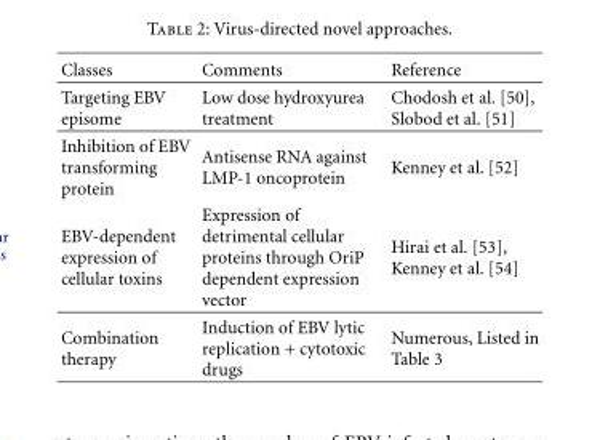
<table><thead><tr><td>Classes</td><td>Comments</td><td>Reference</td></tr></thead><tbody><tr><td>Targeting EBV episome</td><td>Low dose hydroxyurea treatment</td><td>Chodosh et al. [50], Slobod et al. [51]</td></tr><tr><td>Inhibition of EBV transforming protein</td><td>Antisense RNA against LMP-1 oncoprotein</td><td>Kenney et al. [52]</td></tr><tr><td>EBV-dependent expression of cellular toxins</td><td>Expression of detrimental cellular proteins through OriP dependent expression vector</td><td>Hirai et al. [53], Kenney et al. [54]</td></tr><tr><td>Combination therapy</td><td>Induction of EBV lytic replication + cytotoxic drugs</td><td>Numerous, Listed in Table 3</td></tr></tbody></table>